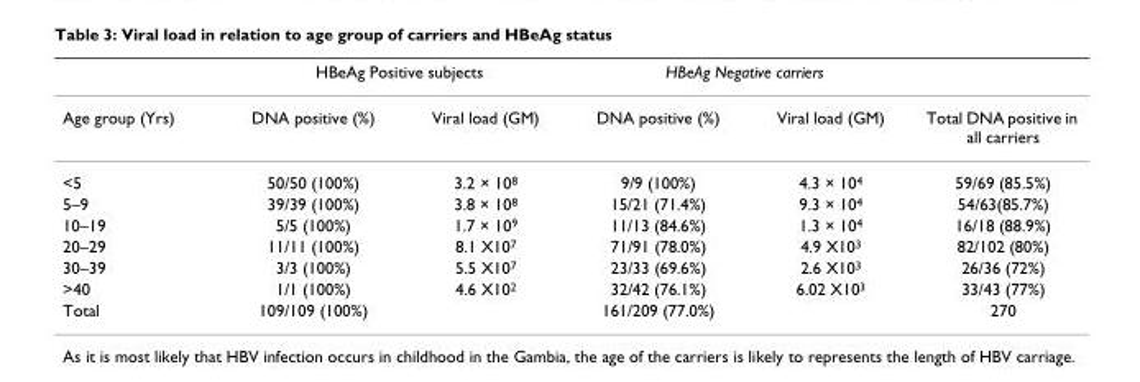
<table><thead><tr><td rowspan="2">Age group (Yrs)</td><td colspan="2">HBeAg Positive subjects</td><td colspan="2">HBeAg Negative carriers</td><td rowspan="2">Total DNA positive in all carriers</td></tr><tr><td>DNA positive (%)</td><td>Viral load (GM)</td><td>DNA positive (%)</td><td>Viral load (GM)</td></tr></thead><tbody><tr><td>&lt;5</td><td>50/50 (100%)</td><td>3.2 × 10<sup>8</sup></td><td>9/9 (100%)</td><td>4.3 × 10<sup>4</sup></td><td>59/69 (85.5%)</td></tr><tr><td>5–9</td><td>39/39 (100%)</td><td>3.8 × 10<sup>8</sup></td><td>15/21 (71.4%)</td><td>9.3 × 10<sup>4</sup></td><td>54/63(85.7%)</td></tr><tr><td>10–19</td><td>5/5 (100%)</td><td>1.7 × 10<sup>9</sup></td><td>11/13 (84.6%)</td><td>1.3 × 10<sup>4</sup></td><td>16/18 (88.9%)</td></tr><tr><td>20–29</td><td>11/11 (100%)</td><td>8.1 X10<sup>7</sup></td><td>71/91 (78.0%)</td><td>4.9 X10<sup>3</sup></td><td>82/102 (80%)</td></tr><tr><td>30–39</td><td>3/3 (100%)</td><td>5.5 X10<sup>7</sup></td><td>23/33 (69.6%)</td><td>2.6 X10<sup>3</sup></td><td>26/36 (72%)</td></tr><tr><td>&gt;40</td><td>1/1 (100%)</td><td>4.6 X10<sup>2</sup></td><td>32/42 (76.1%)</td><td>6.02 X10<sup>3</sup></td><td>33/43 (77%)</td></tr><tr><td>Total</td><td>109/109 (100%)</td><td></td><td>161/209 (77.0%)</td><td></td><td>270</td></tr></tbody></table>